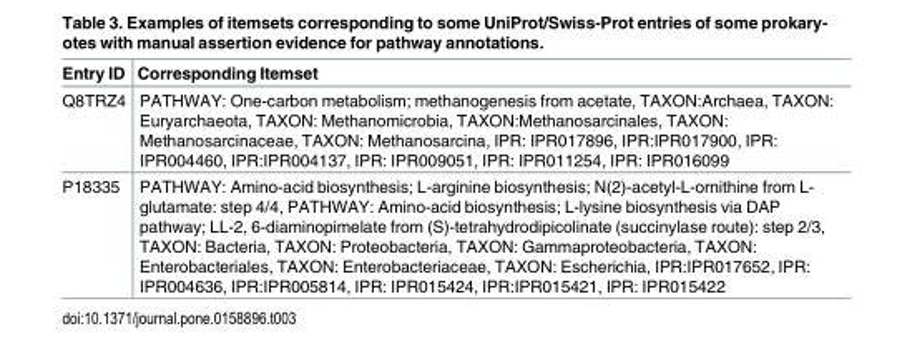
<table><thead><tr><td>Entry ID</td><td>Corresponding Itemset</td></tr></thead><tbody><tr><td>Q8TRZ4</td><td>PATHWAY: One-carbon metabolism; methanogenesis from acetate, TAXON:Archaea, TAXON: Euryarchaeota, TAXON: Methanomicrobia, TAXON:Methanosarcinales, TAXON: Methanosarcinaceae, TAXON: Methanosarcina, IPR: IPR017896, IPR:IPR017900, IPR: IPR004460, IPR:IPR004137, IPR: IPR009051, IPR: IPR011254, IPR: IPR016099</td></tr><tr><td>P18335</td><td>PATHWAY: Amino-acid biosynthesis; L-arginine biosynthesis; N(2)-acetyl-L-ornithine from L- glutamate: step 4/4, PATHWAY: Amino-acid biosynthesis; L-lysine biosynthesis via DAP pathway; LL-2, 6-diaminopimelate from (S)-tetrahydrodipicolinate (succinylase route): step 2/3, TAXON: Bacteria, TAXON: Proteobacteria, TAXON: Gammaproteobacteria, TAXON: Enterobacteriales, TAXON: Enterobacteriaceae, TAXON: Escherichia, IPR:IPR017652, IPR: IPR004636, IPR:IPR005814, IPR: IPR015424, IPR:IPR015421, IPR: IPR015422</td></tr></tbody></table>